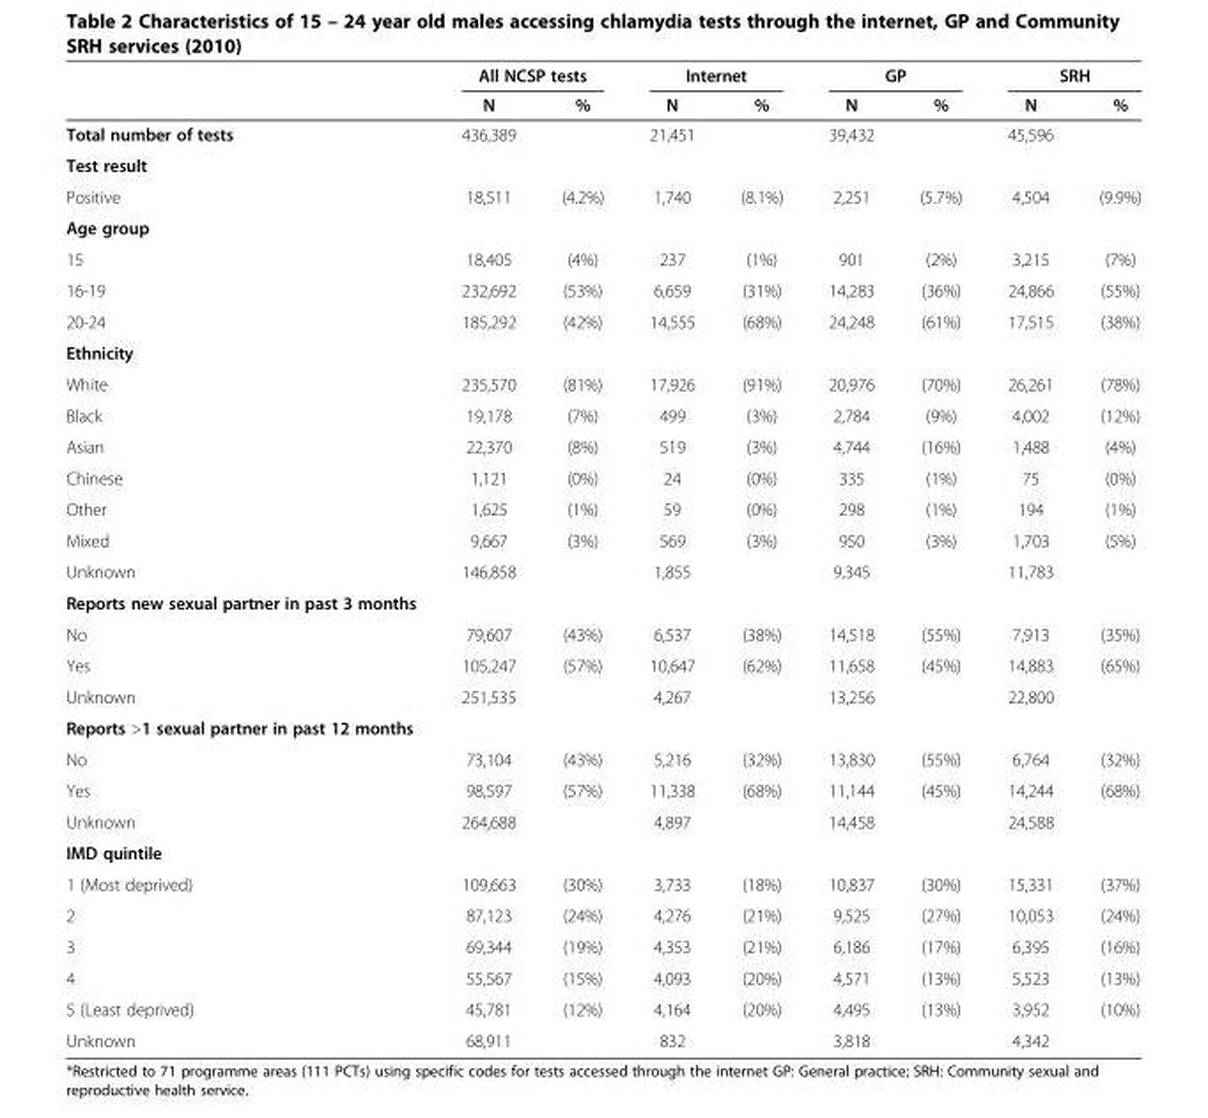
<table><thead><tr><td rowspan="2"></td><td colspan="2">All NCSP tests</td><td colspan="2">Internet</td><td colspan="2">GP</td><td colspan="2">SRH</td></tr><tr><td>N</td><td>%</td><td>N</td><td>%</td><td>N</td><td>%</td><td>N</td><td>%</td></tr></thead><tbody><tr><td>Total number of tests</td><td>436,389</td><td></td><td>21,451</td><td></td><td>39,432</td><td></td><td>45,596</td><td></td></tr><tr><td colspan="9">Test result</td></tr><tr><td>Positive</td><td>18,511</td><td>(4.2%)</td><td>1,740</td><td>(8.1%)</td><td>2,251</td><td>(5.7%)</td><td>4,504</td><td>(9.9%)</td></tr><tr><td colspan="9">Age group</td></tr><tr><td>15</td><td>18,405</td><td>(4%)</td><td>237</td><td>(1%)</td><td>901</td><td>(2%)</td><td>3,215</td><td>(7%)</td></tr><tr><td>16-19</td><td>232,692</td><td>(53%)</td><td>6,659</td><td>(31%)</td><td>14,283</td><td>(36%)</td><td>24,866</td><td>(55%)</td></tr><tr><td>20-24</td><td>185,292</td><td>(42%)</td><td>14,555</td><td>(68%)</td><td>24,248</td><td>(61%)</td><td>17,515</td><td>(38%)</td></tr><tr><td colspan="9">Ethnicity</td></tr><tr><td>White</td><td>235,570</td><td>(81%)</td><td>17,926</td><td>(91%)</td><td>20,976</td><td>(70%)</td><td>26,261</td><td>(78%)</td></tr><tr><td>Black</td><td>19,178</td><td>(7%)</td><td>499</td><td>(3%)</td><td>2,784</td><td>(9%)</td><td>4,002</td><td>(12%)</td></tr><tr><td>Asian</td><td>22,370</td><td>(8%)</td><td>519</td><td>(3%)</td><td>4,744</td><td>(16%)</td><td>1,488</td><td>(4%)</td></tr><tr><td>Chinese</td><td>1,121</td><td>(0%)</td><td>24</td><td>(0%)</td><td>335</td><td>(1%)</td><td>75</td><td>(0%)</td></tr><tr><td>Other</td><td>1,625</td><td>(1%)</td><td>59</td><td>(0%)</td><td>298</td><td>(1%)</td><td>194</td><td>(1%)</td></tr><tr><td>Mixed</td><td>9,667</td><td>(3%)</td><td>569</td><td>(3%)</td><td>950</td><td>(3%)</td><td>1,703</td><td>(5%)</td></tr><tr><td>Unknown</td><td>146,858</td><td></td><td>1,855</td><td></td><td>9,345</td><td></td><td>11,783</td><td></td></tr><tr><td colspan="9">Reports new sexual partner in past 3 months</td></tr><tr><td>No</td><td>79,607</td><td>(43%)</td><td>6,537</td><td>(38%)</td><td>14,518</td><td>(55%)</td><td>7,913</td><td>(35%)</td></tr><tr><td>Yes</td><td>105,247</td><td>(57%)</td><td>10,647</td><td>(62%)</td><td>11,658</td><td>(45%)</td><td>14,883</td><td>(65%)</td></tr><tr><td>Unknown</td><td>251,535</td><td></td><td>4,267</td><td></td><td>13,256</td><td></td><td>22,800</td><td></td></tr><tr><td colspan="9">Reports &gt;1 sexual partner in past 12 months</td></tr><tr><td>No</td><td>73,104</td><td>(43%)</td><td>5,216</td><td>(32%)</td><td>13,830</td><td>(55%)</td><td>6,764</td><td>(32%)</td></tr><tr><td>Yes</td><td>98,597</td><td>(57%)</td><td>11,338</td><td>(68%)</td><td>11,144</td><td>(45%)</td><td>14,244</td><td>(68%)</td></tr><tr><td>Unknown</td><td>264,688</td><td></td><td>4,897</td><td></td><td>14,458</td><td></td><td>24,588</td><td></td></tr><tr><td colspan="9">IMD quintile</td></tr><tr><td>1 (Most deprived)</td><td>109,663</td><td>(30%)</td><td>3,733</td><td>(18%)</td><td>10,837</td><td>(30%)</td><td>15,331</td><td>(37%)</td></tr><tr><td>2</td><td>87,123</td><td>(24%)</td><td>4,276</td><td>(21%)</td><td>9,525</td><td>(27%)</td><td>10,053</td><td>(24%)</td></tr><tr><td>3</td><td>69,344</td><td>(19%)</td><td>4,353</td><td>(21%)</td><td>6,186</td><td>(17%)</td><td>6,395</td><td>(16%)</td></tr><tr><td>4</td><td>55,567</td><td>(15%)</td><td>4,093</td><td>(20%)</td><td>4,571</td><td>(13%)</td><td>5,523</td><td>(13%)</td></tr><tr><td>5 (Least deprived)</td><td>45,781</td><td>(12%)</td><td>4,164</td><td>(20%)</td><td>4,495</td><td>(13%)</td><td>3,952</td><td>(10%)</td></tr><tr><td>Unknown</td><td>68,911</td><td></td><td>832</td><td></td><td>3,818</td><td></td><td>4,342</td><td></td></tr></tbody></table>